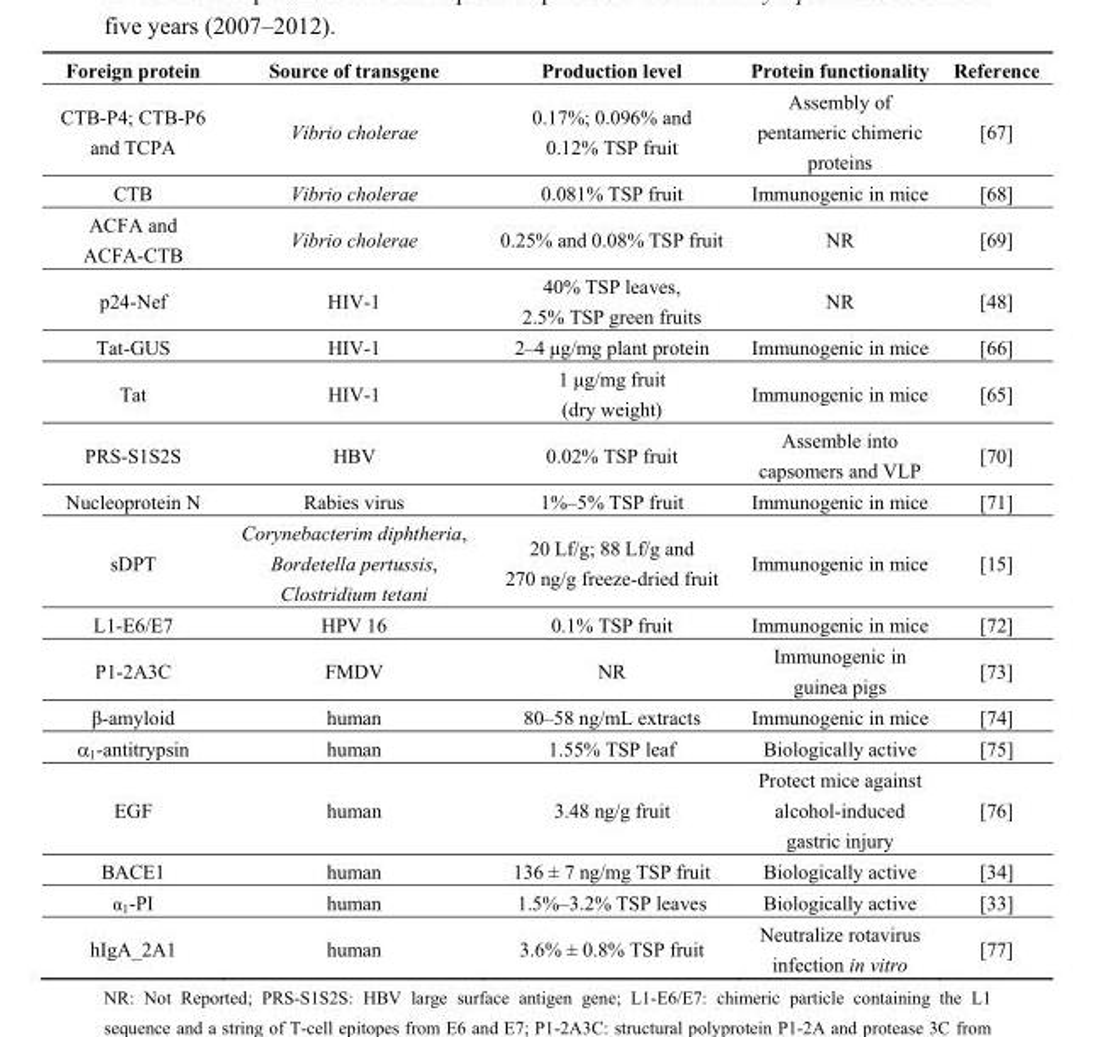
<table><thead><tr><td>Foreign protein</td><td>Source of transgene</td><td>Production level</td><td>Protein functionality</td><td>Reference</td></tr></thead><tbody><tr><td>CTB-P4; CTB-P6 and TCPA</td><td>Vibrio cholerae</td><td>0.17%; 0.096% and 0.12% TSP fruit</td><td>Assembly of pentameric chimeric proteins</td><td>[67]</td></tr><tr><td>CTB</td><td>Vibrio cholerae</td><td>0.081% TSP fruit</td><td>Immunogenic in mice</td><td>[68]</td></tr><tr><td>ACFA and ACFA-CTB</td><td>Vibrio cholerae</td><td>0.25% and 0.08% TSP fruit</td><td>NR</td><td>[69]</td></tr><tr><td>p24-Nef</td><td>HIV-1</td><td>40% TSP leaves, 2.5% TSP green fruits</td><td>NR</td><td>[48]</td></tr><tr><td>Tat-GUS</td><td>HIV-1</td><td>2–4 μg/mg plant protein</td><td>Immunogenic in mice</td><td>[66]</td></tr><tr><td>Tat</td><td>HIV-1</td><td>1 μg/mg fruit (dry weight)</td><td>Immunogenic in mice</td><td>[65]</td></tr><tr><td>PRS-S1S2S</td><td>HBV</td><td>0.02% TSP fruit</td><td>Assemble into capsomers and VLP</td><td>[70]</td></tr><tr><td>Nucleoprotein N</td><td>Rabies virus</td><td>1%–5% TSP fruit</td><td>Immunogenic in mice</td><td>[71]</td></tr><tr><td>sDPT</td><td>Corynebacterim diphtheria, Bordetella pertussis, Clostridium tetani</td><td>20 Lf/g; 88 Lf/g and 270 ng/g freeze-dried fruit</td><td>Immunogenic in mice</td><td>[15]</td></tr><tr><td>L1-E6/E7</td><td>HPV 16</td><td>0.1% TSP fruit</td><td>Immunogenic in mice</td><td>[72]</td></tr><tr><td>P1-2A3C</td><td>FMDV</td><td>NR</td><td>Immunogenic in guinea pigs</td><td>[73]</td></tr><tr><td>β-amyloid</td><td>human</td><td>80–58 ng/mL extracts</td><td>Immunogenic in mice</td><td>[74]</td></tr><tr><td>α<sub>1</sub>-antitrypsin</td><td>human</td><td>1.55% TSP leaf</td><td>Biologically active</td><td>[75]</td></tr><tr><td>EGF</td><td>human</td><td>3.48 ng/g fruit</td><td>Protect mice against alcohol-induced gastric injury</td><td>[76]</td></tr><tr><td>BACE1</td><td>human</td><td>136 ± 7 ng/mg TSP fruit</td><td>Biologically active</td><td>[34]</td></tr><tr><td>α<sub>1</sub>-PI</td><td>human</td><td>1.5%–3.2% TSP leaves</td><td>Biologically active</td><td>[33]</td></tr><tr><td>hIgA_2A1</td><td>human</td><td>3.6% ± 0.8% TSP fruit</td><td>Neutralize rotavirus infection in vitro</td><td>[77]</td></tr></tbody></table>